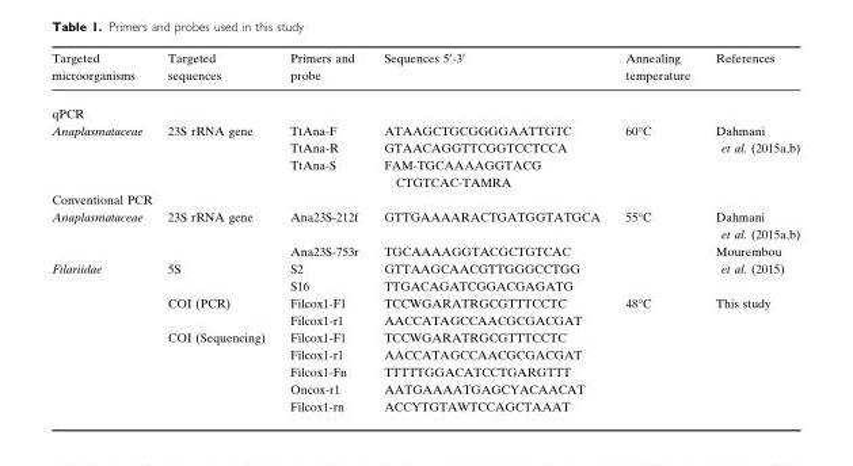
<table><thead><tr><td>Targeted microorganisms</td><td>Targeted sequences</td><td>Primers and probe</td><td>Sequences 5′-3′</td><td>Annealing temperature</td><td>References</td></tr></thead><tbody><tr><td colspan="6">qPCR</td></tr><tr><td rowspan="3">Anaplasmataceae</td><td rowspan="3">23S rRNA gene</td><td>TtAna-F</td><td>ATAAGCTGCGGGGAATTGTC</td><td rowspan="3">60°C</td><td rowspan="3">Dahmani et al. (2015a,b)</td></tr><tr><td>TtAna-R</td><td>GTAACAGGTTCGGTCCTCCA</td></tr><tr><td>TtAna-S</td><td>FAM-TGCAAAAGGTACG CTGTCAC-TAMRA</td></tr><tr><td colspan="6">Conventional PCR</td></tr><tr><td rowspan="2">Anaplasmataceae</td><td rowspan="2">23S rRNA gene</td><td>Ana23S-212f</td><td>GTTGAAAARACTGATGGTATGCA</td><td>55°C</td><td>Dahmani et al. (2015a,b)</td></tr><tr><td>Ana23S-753r</td><td>TGCAAAAGGTACGCTGTCAC</td><td rowspan="2"></td><td rowspan="2">Mourembou et al. (2015)</td></tr><tr><td rowspan="9">Filariidae</td><td rowspan="2">5S</td><td>S2</td><td>GTTAAGCAACGTTGGGCCTGG</td></tr><tr><td>S16</td><td>TTGACAGATCGGACGAGATG</td><td></td><td></td></tr><tr><td rowspan="2">COI (PCR)</td><td>Filcox1-F1</td><td>TCCWGARATRGCGTTTCCTC</td><td rowspan="7">48°C</td><td rowspan="7">This study</td></tr><tr><td>Filcox1-r1</td><td>AACCATAGCCAACGCGACGAT</td></tr><tr><td rowspan="5">COI (Sequencing)</td><td>Filcox1-F1</td><td>TCCWGARATRGCGTTTCCTC</td></tr><tr><td>Filcox1-r1</td><td>AACCATAGCCAACGCGACGAT</td></tr><tr><td>Filcox1-Fn</td><td>TTTTTGGACATCCTGARGTTT</td></tr><tr><td>Oncox-r1</td><td>AATGAAAATGAGCYACAACAT</td></tr><tr><td>Filcox1-rn</td><td>ACCYTGTAWTCCAGCTAAAT</td></tr></tbody></table>